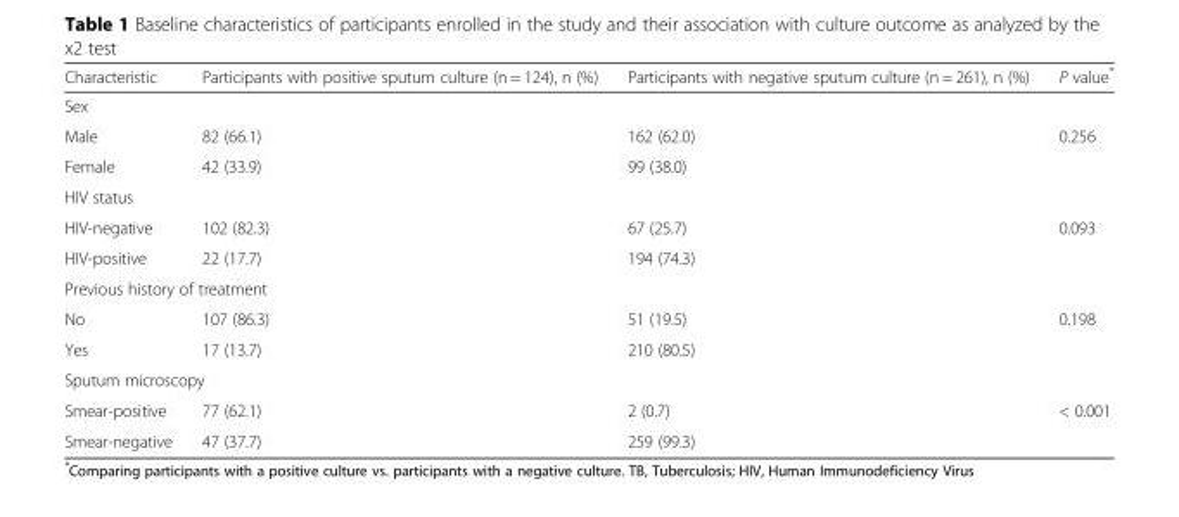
<table><thead><tr><td>Characteristic</td><td>Participants with positive sputum culture (n = 124), n (%)</td><td>Participants with negative sputum culture (n = 261), n (%)</td><td>P value*</td></tr></thead><tbody><tr><td colspan="4">Sex</td></tr><tr><td>Male</td><td>82 (66.1)</td><td>162 (62.0)</td><td>0.256</td></tr><tr><td>Female</td><td>42 (33.9)</td><td>99 (38.0)</td><td></td></tr><tr><td colspan="4">HIV status</td></tr><tr><td>HIV-negative</td><td>102 (82.3)</td><td>67 (25.7)</td><td>0.093</td></tr><tr><td>HIV-positive</td><td>22 (17.7)</td><td>194 (74.3)</td><td></td></tr><tr><td colspan="4">Previous history of treatment</td></tr><tr><td>No</td><td>107 (86.3)</td><td>51 (19.5)</td><td>0.198</td></tr><tr><td>Yes</td><td>17 (13.7)</td><td>210 (80.5)</td><td></td></tr><tr><td colspan="4">Sputum microscopy</td></tr><tr><td>Smear-positive</td><td>77 (62.1)</td><td>2 (0.7)</td><td>&lt; 0.001</td></tr><tr><td>Smear-negative</td><td>47 (37.7)</td><td>259 (99.3)</td><td></td></tr></tbody></table>